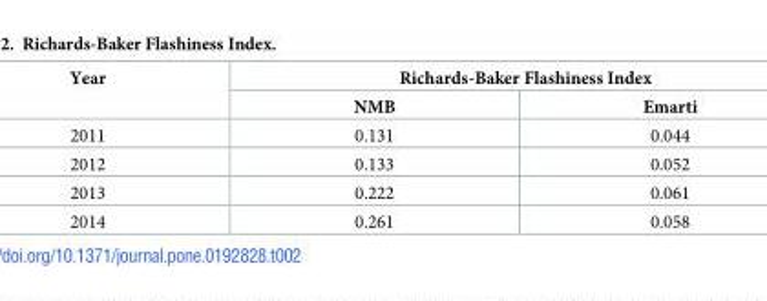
<table><thead><tr><td rowspan="2">Year</td><td colspan="2">Richards-Baker Flashiness Index</td></tr><tr><td>NMB</td><td>Emarti</td></tr></thead><tbody><tr><td>2011</td><td>0.131</td><td>0.044</td></tr><tr><td>2012</td><td>0.133</td><td>0.052</td></tr><tr><td>2013</td><td>0.222</td><td>0.061</td></tr><tr><td>2014</td><td>0.261</td><td>0.058</td></tr></tbody></table>